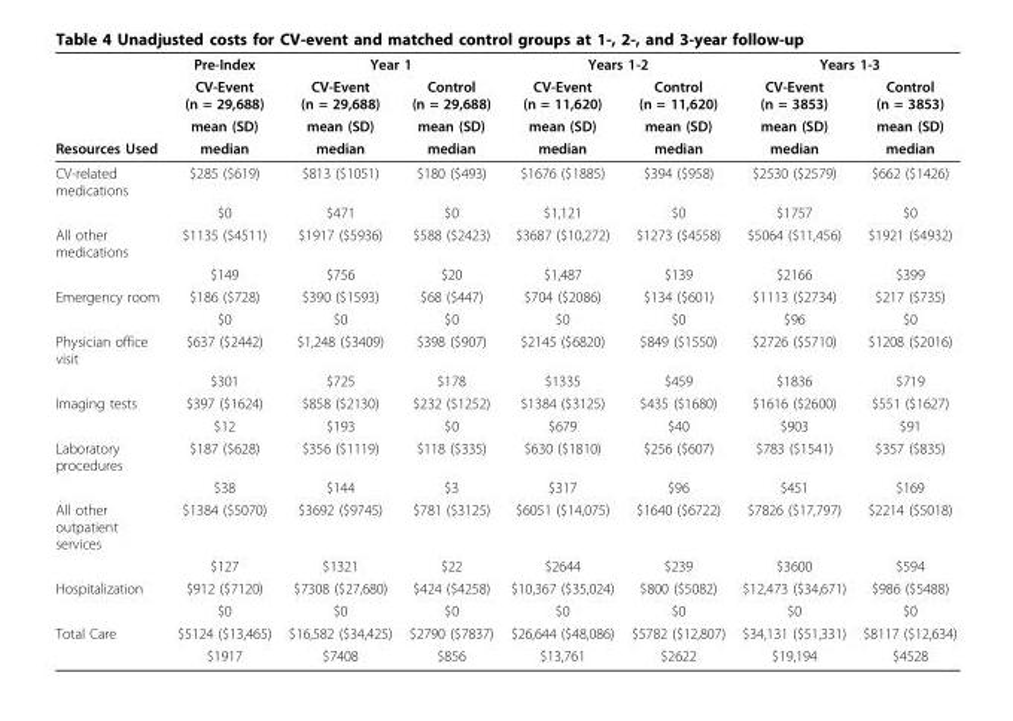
<table><thead><tr><td rowspan="4">Resources Used</td><td rowspan="4">Pre-Index CV-Event (n = 29,688) mean (SD) median</td><td colspan="2">Year 1</td><td colspan="2">Years 1-2</td><td colspan="2">Years 1-3</td></tr><tr><td rowspan="3">CV-Event (n = 29,688) mean (SD) median</td><td rowspan="3">Control (n = 29,688) mean (SD) median</td><td rowspan="3">CV-Event (n = 11,620) mean (SD) median</td><td rowspan="3">Control (n = 11,620) mean (SD) median</td><td rowspan="3">CV-Event (n = 3853) mean (SD) median</td><td rowspan="3">Control (n = 3853) mean (SD) median</td></tr><tr></tr><tr></tr></thead><tbody><tr><td rowspan="2">CV-related medications</td><td>$285 ($619)</td><td>$813 ($1051)</td><td>$180 ($493)</td><td>$1676 ($1885)</td><td>$394 ($958)</td><td>$2530 ($2579)</td><td>$662 ($1426)</td></tr><tr><td>$0</td><td>$471</td><td>$0</td><td>$1,121</td><td>$0</td><td>$1757</td><td>$0</td></tr><tr><td rowspan="2">All other medications</td><td>$1135 ($4511)</td><td>$1917 ($5936)</td><td>$588 ($2423)</td><td>$3687 ($10,272)</td><td>$1273 ($4558)</td><td>$5064 ($11,456)</td><td>$1921 ($4932)</td></tr><tr><td>$149</td><td>$756</td><td>$20</td><td>$1,487</td><td>$139</td><td>$2166</td><td>$399</td></tr><tr><td rowspan="2">Emergency room</td><td>$186 ($728)</td><td>$390 ($1593)</td><td>$68 ($447)</td><td>$704 ($2086)</td><td>$134 ($601)</td><td>$1113 ($2734)</td><td>$217 ($735)</td></tr><tr><td>$0</td><td>$0</td><td>$0</td><td>$0</td><td>$0</td><td>$96</td><td>$0</td></tr><tr><td rowspan="2">Physician office visit</td><td>$637 ($2442)</td><td>$1,248 ($3409)</td><td>$398 ($907)</td><td>$2145 ($6820)</td><td>$849 ($1550)</td><td>$2726 ($5710)</td><td>$1208 ($2016)</td></tr><tr><td>$301</td><td>$725</td><td>$178</td><td>$1335</td><td>$459</td><td>$1836</td><td>$719</td></tr><tr><td rowspan="2">Imaging tests</td><td>$397 ($1624)</td><td>$858 ($2130)</td><td>$232 ($1252)</td><td>$1384 ($3125)</td><td>$435 ($1680)</td><td>$1616 ($2600)</td><td>$551 ($1627)</td></tr><tr><td>$12</td><td>$193</td><td>$0</td><td>$679</td><td>$40</td><td>$903</td><td>$91</td></tr><tr><td rowspan="2">Laboratory procedures</td><td>$187 ($628)</td><td>$356 ($1119)</td><td>$118 ($335)</td><td>$630 ($1810)</td><td>$256 ($607)</td><td>$783 ($1541)</td><td>$357 ($835)</td></tr><tr><td>$38</td><td>$144</td><td>$3</td><td>$317</td><td>$96</td><td>$451</td><td>$169</td></tr><tr><td rowspan="2">All other outpatient services</td><td>$1384 ($5070)</td><td>$3692 ($9745)</td><td>$781 ($3125)</td><td>$6051 ($14,075)</td><td>$1640 ($6722)</td><td>$7826 ($17,797)</td><td>$2214 ($5018)</td></tr><tr><td>$127</td><td>$1321</td><td>$22</td><td>$2644</td><td>$239</td><td>$3600</td><td>$594</td></tr><tr><td rowspan="2">Hospitalization</td><td>$912 ($7120)</td><td>$7308 ($27,680)</td><td>$424 ($4258)</td><td>$10,367 ($35,024)</td><td>$800 ($5082)</td><td>$12,473 ($34,671)</td><td>$986 ($5488)</td></tr><tr><td>$0</td><td>$0</td><td>$0</td><td>$0</td><td>$0</td><td>$0</td><td>$0</td></tr><tr><td rowspan="2">Total Care</td><td>$5124 ($13,465)</td><td>$16,582 ($34,425)</td><td>$2790 ($7837)</td><td>$26,644 ($48,086)</td><td>$5782 ($12,807)</td><td>$34,131 ($51,331)</td><td>$8117 ($12,634)</td></tr><tr><td>$1917</td><td>$7408</td><td>$856</td><td>$13,761</td><td>$2622</td><td>$19,194</td><td>$4528</td></tr></tbody></table>